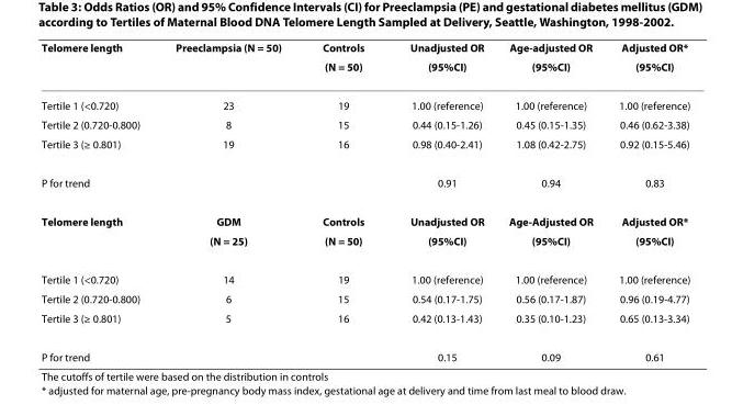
<table><thead><tr><td rowspan="2">Telomere length</td><td rowspan="2">Preeclampsia (N = 50)</td><td rowspan="2">Controls (N = 50)</td><td rowspan="2">Unadjusted OR (95%CI)</td><td rowspan="2">Age-adjusted OR (95%CI)</td><td rowspan="2">Adjusted OR* (95%CI)</td></tr><tr></tr></thead><tbody><tr><td>Tertile 1 (&lt;0.720)</td><td>23</td><td>19</td><td>1.00 (reference)</td><td>1.00 (reference)</td><td>1.00 (reference)</td></tr><tr><td>Tertile 2 (0.720-0.800)</td><td>8</td><td>15</td><td>0.44 (0.15-1.26)</td><td>0.45 (0.15-1.35)</td><td>0.46 (0.62-3.38)</td></tr><tr><td>Tertile 3 (≥ 0.801)</td><td>19</td><td>16</td><td>0.98 (0.40-2.41)</td><td>1.08 (0.42-2.75)</td><td>0.92 (0.15-5.46)</td></tr><tr><td>P for trend</td><td></td><td></td><td>0.91</td><td>0.94</td><td>0.83</td></tr><tr><td rowspan="2">Telomere length</td><td>GDM</td><td>Controls</td><td>Unadjusted OR</td><td>Age-Adjusted OR</td><td>Adjusted OR*</td></tr><tr><td>(N = 25)</td><td>(N = 50)</td><td>(95%CI)</td><td>(95%CI)</td><td>(95%CI)</td></tr><tr><td>Tertile 1 (&lt;0.720)</td><td>14</td><td>19</td><td>1.00 (reference)</td><td>1.00 (reference)</td><td>1.00 (reference)</td></tr><tr><td>Tertile 2 (0.720-0.800)</td><td>6</td><td>15</td><td>0.54 (0.17-1.75)</td><td>0.56 (0.17-1.87)</td><td>0.96 (0.19-4.77)</td></tr><tr><td>Tertile 3 (≥ 0.801)</td><td>5</td><td>16</td><td>0.42 (0.13-1.43)</td><td>0.35 (0.10-1.23)</td><td>0.65 (0.13-3.34)</td></tr><tr><td>P for trend</td><td></td><td></td><td>0.15</td><td>0.09</td><td>0.61</td></tr></tbody></table>